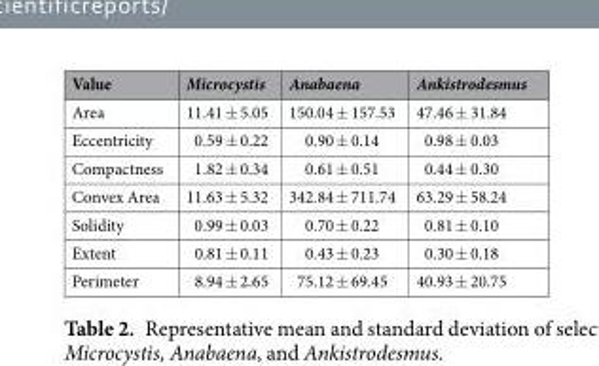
<table><thead><tr><td>Value</td><td>Microcystis</td><td>Anabaena</td><td>Ankistrodesmus</td></tr></thead><tbody><tr><td>Area</td><td>11.41 ± 5.05</td><td>150.04 ± 157.53</td><td>47.46 ± 31.84</td></tr><tr><td>Eccentricity</td><td>0.59 ± 0.22</td><td>0.90 ± 0.14</td><td>0.98 ± 0.03</td></tr><tr><td>Compactness</td><td>1.82 ± 0.34</td><td>0.61 ± 0.51</td><td>0.44 ± 0.30</td></tr><tr><td>Convex Area</td><td>11.63 ± 5.32</td><td>342.84 ± 711.74</td><td>63.29 ± 58.24</td></tr><tr><td>Solidity</td><td>0.99 ± 0.03</td><td>0.70 ± 0.22</td><td>0.81 ± 0.10</td></tr><tr><td>Extent</td><td>0.81 ± 0.11</td><td>0.43 ± 0.23</td><td>0.30 ± 0.18</td></tr><tr><td>Perimeter</td><td>8.94 ± 2.65</td><td>75.12 ± 69.45</td><td>40.93 ± 20.75</td></tr></tbody></table>